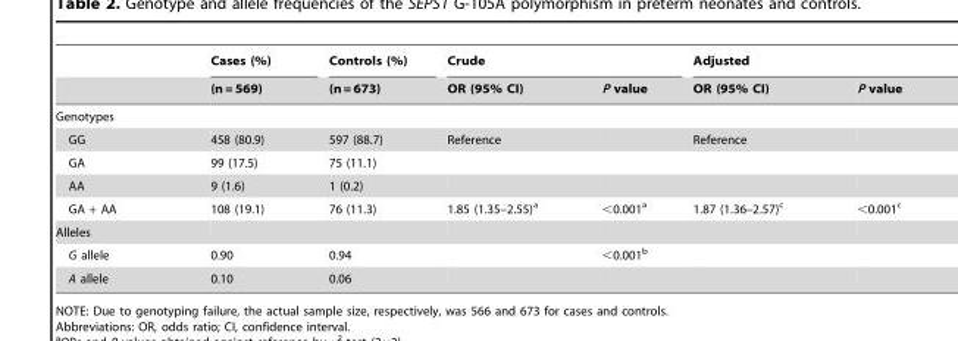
<table><thead><tr><td rowspan="2"></td><td rowspan="2">Cases (%) (n = 569)</td><td rowspan="2">Controls (%) (n = 673)</td><td colspan="2">Crude</td><td colspan="2">Adjusted</td></tr><tr><td>OR (95% CI)</td><td>P value</td><td>OR (95% CI)</td><td>P value</td></tr></thead><tbody><tr><td colspan="7">Genotypes</td></tr><tr><td>GG</td><td>458 (80.9)</td><td>597 (88.7)</td><td>Reference</td><td></td><td>Reference</td><td></td></tr><tr><td>GA</td><td>99 (17.5)</td><td>75 (11.1)</td><td></td><td></td><td></td><td></td></tr><tr><td>AA</td><td>9 (1.6)</td><td>1 (0.2)</td><td></td><td></td><td></td><td></td></tr><tr><td>GA + AA</td><td>108 (19.1)</td><td>76 (11.3)</td><td>1.85 (1.35–2.55)<sup>a</sup></td><td>&lt;0.001<sup>a</sup></td><td>1.87 (1.36–2.57)<sup>c</sup></td><td>&lt;0.001<sup>c</sup></td></tr><tr><td colspan="7">Alleles</td></tr><tr><td>G allele</td><td>0.90</td><td>0.94</td><td></td><td>&lt;0.001<sup>b</sup></td><td></td><td></td></tr><tr><td>A allele</td><td>0.10</td><td>0.06</td><td></td><td></td><td></td><td></td></tr></tbody></table>